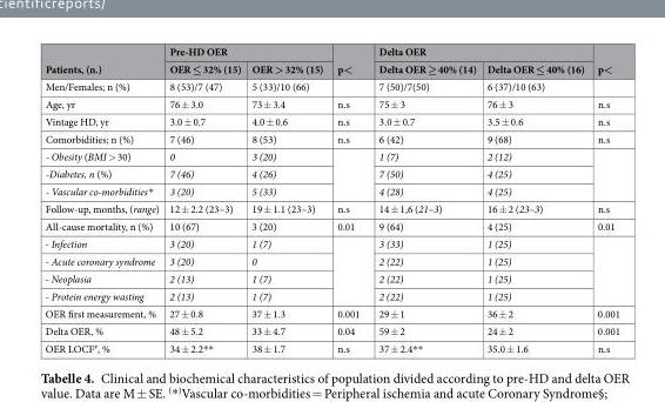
<table><thead><tr><td rowspan="2">Patients, (n.)</td><td colspan="2">Pre-HD OER</td><td rowspan="2">p&lt;</td><td colspan="2">Delta OER</td><td rowspan="2">p&lt;</td></tr><tr><td>OER ≤ 32% (15)</td><td>OER &gt; 32% (15)</td><td>Delta OER ≥ 40% (14)</td><td>Delta OER ≤ 40% (16)</td></tr></thead><tbody><tr><td>Men/Females; n (%)</td><td>8 (53)/7 (47)</td><td>5 (33)/10 (66)</td><td></td><td>7 (50)/7(50)</td><td>6 (37)/10 (63)</td><td></td></tr><tr><td>Age, yr</td><td>76 ± 3.0</td><td>73 ± 3.4</td><td>n.s</td><td>75 ± 3</td><td>76 ± 3</td><td>n.s</td></tr><tr><td>Vintage HD, yr</td><td>3.0 ± 0.7</td><td>4.0 ± 0.6</td><td>n.s</td><td>3.0 ± 0.7</td><td>3.5 ± 0.6</td><td>n.s</td></tr><tr><td>Comorbidities; n (%)</td><td>7 (46)</td><td>8 (53)</td><td>n.s</td><td>6 (42)</td><td>9 (68)</td><td>n.s</td></tr><tr><td>- Obesity (BMI &gt; 30)</td><td>0</td><td>3 (20)</td><td rowspan="3"></td><td>1 (7)</td><td>2 (12)</td><td rowspan="3"></td></tr><tr><td>-Diabetes, n (%)</td><td>7 (46)</td><td>4 (26)</td><td>7 (50)</td><td>4 (25)</td></tr><tr><td>- Vascular co-morbidities*</td><td>3 (20)</td><td>5 (33)</td><td>4 (28)</td><td>4 (25)</td></tr><tr><td>Follow-up, months, (range)</td><td>12 ± 2.2 (23–3)</td><td>19 ± 1.1 (23–3)</td><td>n.s</td><td>14 ± 1,6 (21–3)</td><td>16 ± 2 (23–3)</td><td>n.s</td></tr><tr><td>All-cause mortality, n (%)</td><td>10 (67)</td><td>3 (20)</td><td>0.01</td><td>9 (64)</td><td>4 (25)</td><td>0.01</td></tr><tr><td>- Infection</td><td>3 (20)</td><td>1 (7)</td><td rowspan="4"></td><td>3 (33)</td><td>1 (25)</td><td rowspan="4"></td></tr><tr><td>- Acute coronary syndrome</td><td>3 (20)</td><td>0</td><td>2 (22)</td><td>1 (25)</td></tr><tr><td>- Neoplasia</td><td>2 (13)</td><td>1 (7)</td><td>2 (22)</td><td>1 (25)</td></tr><tr><td>- Protein energy wasting</td><td>2 (13)</td><td>1 (7)</td><td>2 (22)</td><td>1 (25)</td></tr><tr><td>OER first measurement, %</td><td>27 ± 0.8</td><td>37 ± 1.3</td><td>0.001</td><td>29 ± 1</td><td>36 ± 2</td><td>0.001</td></tr><tr><td>Delta OER, %</td><td>48 ± 5.2</td><td>33 ± 4.7</td><td>0.04</td><td>59 ± 2</td><td>24 ± 2</td><td>0.001</td></tr><tr><td>OER LOCF<sup>#</sup>, %</td><td>34 ± 2.2**</td><td>38 ± 1.7</td><td>n.s</td><td>37 ± 2.4**</td><td>35.0 ± 1.6</td><td>n.s</td></tr></tbody></table>